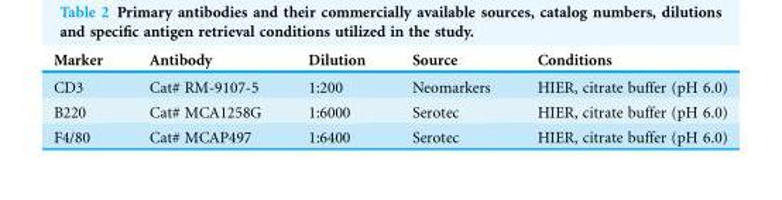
<table><thead><tr><td>Marker</td><td>Antibody</td><td>Dilution</td><td>Source</td><td>Conditions</td></tr></thead><tbody><tr><td>CD3</td><td>Cat# RM-9107-5</td><td>1:200</td><td>Neomarkers</td><td>HIER, citrate buffer (pH 6.0)</td></tr><tr><td>B220</td><td>Cat# MCA1258G</td><td>1:6000</td><td>Serotec</td><td>HIER, citrate buffer (pH 6.0)</td></tr><tr><td>F4/80</td><td>Cat# MCAP497</td><td>1:6400</td><td>Serotec</td><td>HIER, citrate buffer (pH 6.0)</td></tr></tbody></table>